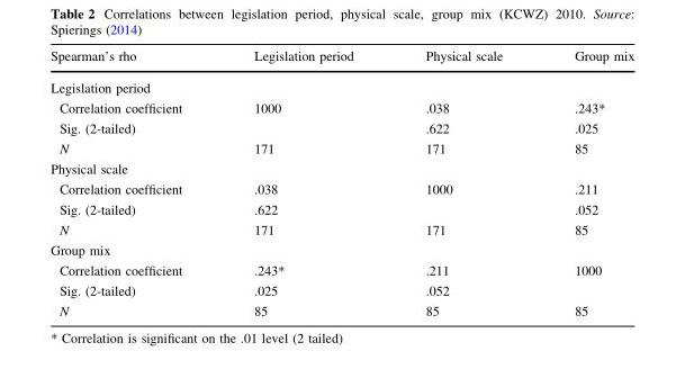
<table><thead><tr><td>Spearman’s rho</td><td>Legislation period</td><td>Physical scale</td><td>Group mix</td></tr></thead><tbody><tr><td colspan="4">Legislation period</td></tr><tr><td>Correlation coefficient</td><td>1000</td><td>.038</td><td>.243*</td></tr><tr><td>Sig. (2-tailed)</td><td></td><td>.622</td><td>.025</td></tr><tr><td>N</td><td>171</td><td>171</td><td>85</td></tr><tr><td colspan="4">Physical scale</td></tr><tr><td>Correlation coefficient</td><td>.038</td><td>1000</td><td>.211</td></tr><tr><td>Sig. (2-tailed)</td><td>.622</td><td></td><td>.052</td></tr><tr><td>N</td><td>171</td><td>171</td><td>85</td></tr><tr><td colspan="4">Group mix</td></tr><tr><td>Correlation coefficient</td><td>.243*</td><td>.211</td><td>1000</td></tr><tr><td>Sig. (2-tailed)</td><td>.025</td><td>.052</td><td></td></tr><tr><td>N</td><td>85</td><td>85</td><td>85</td></tr></tbody></table>